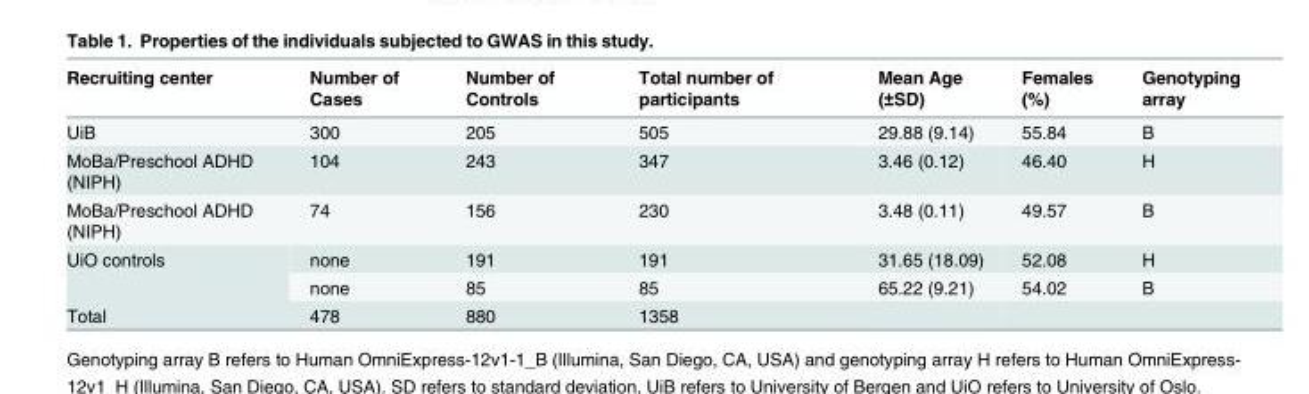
<table><thead><tr><td>Recruiting center</td><td>Number of Cases</td><td>Number of Controls</td><td>Total number of participants</td><td>Mean Age (±SD)</td><td>Females (%)</td><td>Genotyping array</td></tr></thead><tbody><tr><td>UiB</td><td>300</td><td>205</td><td>505</td><td>29.88 (9.14)</td><td>55.84</td><td>B</td></tr><tr><td>MoBa/Preschool ADHD (NIPH)</td><td>104</td><td>243</td><td>347</td><td>3.46 (0.12)</td><td>46.40</td><td>H</td></tr><tr><td>MoBa/Preschool ADHD (NIPH)</td><td>74</td><td>156</td><td>230</td><td>3.48 (0.11)</td><td>49.57</td><td>B</td></tr><tr><td rowspan="2">UiO controls</td><td>none</td><td>191</td><td>191</td><td>31.65 (18.09)</td><td>52.08</td><td>H</td></tr><tr><td>none</td><td>85</td><td>85</td><td>65.22 (9.21)</td><td>54.02</td><td>B</td></tr><tr><td>Total</td><td>478</td><td>880</td><td>1358</td><td></td><td></td><td></td></tr></tbody></table>